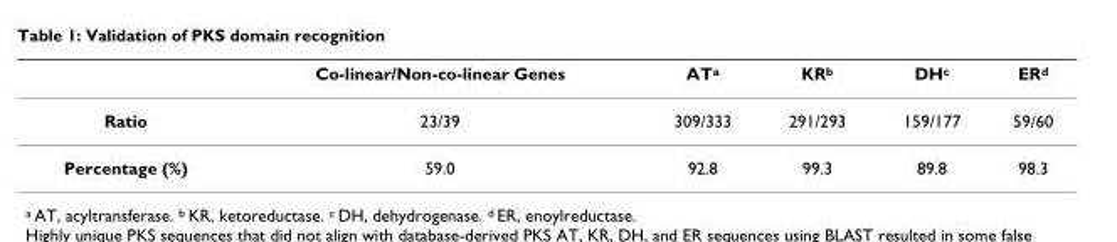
<table><thead><tr><td></td><td>Co-linear/Non-co-linear Genes</td><td>AT<sup>a</sup></td><td>KR<sup>b</sup></td><td>DH<sup>c</sup></td><td>ER<sup>d</sup></td></tr></thead><tbody><tr><td>Ratio</td><td>23/39</td><td>309/333</td><td>291/293</td><td>159/177</td><td>59/60</td></tr><tr><td>Percentage (%)</td><td>59.0</td><td>92.8</td><td>99.3</td><td>89.8</td><td>98.3</td></tr></tbody></table>